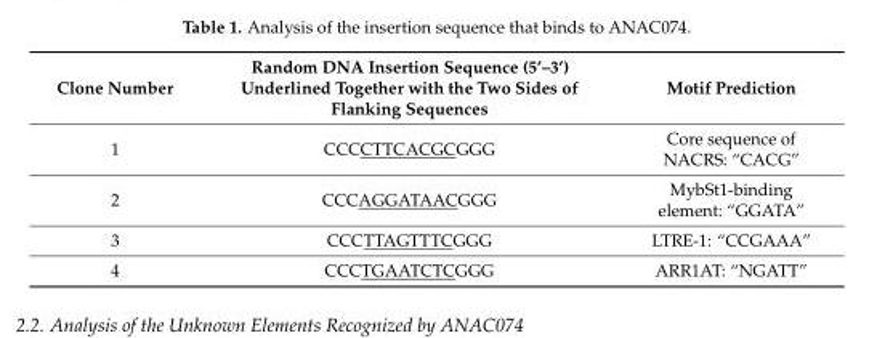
<table><thead><tr><td>Clone Number</td><td>Random DNA Insertion Sequence (5’–3’) Underlined Together with the Two Sides of Flanking Sequences</td><td>Motif Prediction</td></tr></thead><tbody><tr><td>1</td><td>CCCCTTCACGCGGG</td><td>Core sequence of NACRS: “CACG”</td></tr><tr><td>2</td><td>CCCAGGATAACGGG</td><td>MybSt1-binding element: “GGATA”</td></tr><tr><td>3</td><td>CCCTTAGTTTCGGG</td><td>LTRE-1: “CCGAAA”</td></tr><tr><td>4</td><td>CCCTGAATCTCGGG</td><td>ARR1AT: “NGATT”</td></tr></tbody></table>